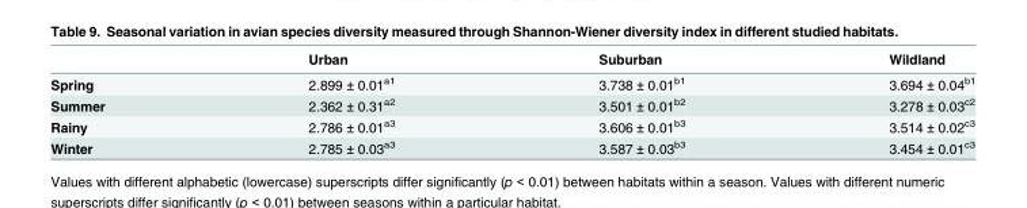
<table><thead><tr><td></td><td>Urban</td><td>Suburban</td><td>Wildland</td></tr></thead><tbody><tr><td>Spring</td><td>2.899 ± 0.01<sup>a1</sup></td><td>3.738 ± 0.01<sup>b1</sup></td><td>3.694 ± 0.04<sup>b1</sup></td></tr><tr><td>Summer</td><td>2.362 ± 0.31<sup>a2</sup></td><td>3.501 ± 0.01<sup>b2</sup></td><td>3.278 ± 0.03<sup>c2</sup></td></tr><tr><td>Rainy</td><td>2.786 ± 0.01<sup>a3</sup></td><td>3.606 ± 0.01<sup>b3</sup></td><td>3.514 ± 0.02<sup>c3</sup></td></tr><tr><td>Winter</td><td>2.785 ± 0.03<sup>a3</sup></td><td>3.587 ± 0.03<sup>b3</sup></td><td>3.454 ± 0.01<sup>c3</sup></td></tr></tbody></table>